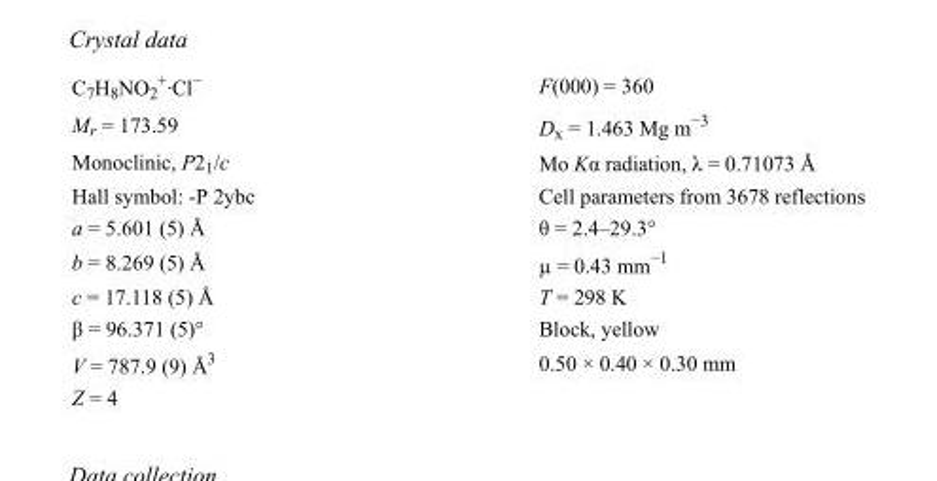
<table><tbody><tr><td>C<sub>7</sub>H<sub>8</sub>NO<sub>2</sub> <sup>+</sup>·Cl<sup>−</sup></td><td>F(000) = 360</td></tr><tr><td>M<sub>r</sub> = 173.59</td><td>D<sub>x</sub> = 1.463 Mg m<sup>−3</sup></td></tr><tr><td>Monoclinic, P2<sub>1</sub>/c</td><td>Mo Kα radiation, λ = 0.71073 Å</td></tr><tr><td>Hall symbol: -P 2ybc</td><td>Cell parameters from 3678 reflections</td></tr><tr><td>a = 5.601 (5) Å</td><td>θ = 2.4–29.3°</td></tr><tr><td>b = 8.269 (5) Å</td><td>µ = 0.43 mm<sup>−1</sup></td></tr><tr><td>c = 17.118 (5) Å</td><td>T = 298 K</td></tr><tr><td>β = 96.371 (5)°</td><td>Block, yellow</td></tr><tr><td>V = 787.9 (9) Å<sup>3</sup></td><td>0.50 × 0.40 × 0.30 mm</td></tr><tr><td>Z = 4</td><td></td></tr></tbody></table>